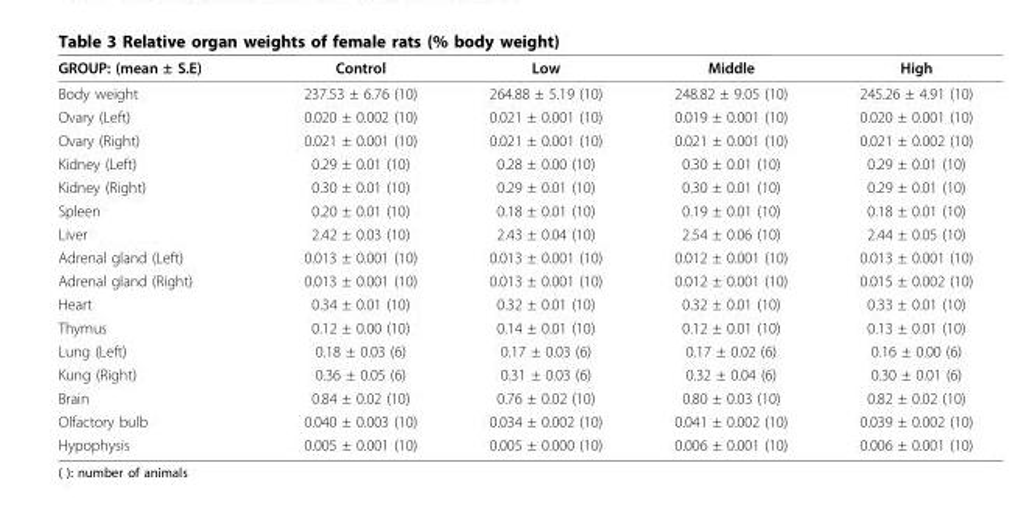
<table><thead><tr><td>GROUP: (mean ± S.E)</td><td>Control</td><td>Low</td><td>Middle</td><td>High</td></tr></thead><tbody><tr><td>Body weight</td><td>237.53 ± 6.76 (10)</td><td>264.88 ± 5.19 (10)</td><td>248.82 ± 9.05 (10)</td><td>245.26 ± 4.91 (10)</td></tr><tr><td>Ovary (Left)</td><td>0.020 ± 0.002 (10)</td><td>0.021 ± 0.001 (10)</td><td>0.019 ± 0.001 (10)</td><td>0.020 ± 0.001 (10)</td></tr><tr><td>Ovary (Right)</td><td>0.021 ± 0.001 (10)</td><td>0.021 ± 0.001 (10)</td><td>0.021 ± 0.001 (10)</td><td>0.021 ± 0.002 (10)</td></tr><tr><td>Kidney (Left)</td><td>0.29 ± 0.01 (10)</td><td>0.28 ± 0.00 (10)</td><td>0.30 ± 0.01 (10)</td><td>0.29 ± 0.01 (10)</td></tr><tr><td>Kidney (Right)</td><td>0.30 ± 0.01 (10)</td><td>0.29 ± 0.01 (10)</td><td>0.30 ± 0.01 (10)</td><td>0.29 ± 0.01 (10)</td></tr><tr><td>Spleen</td><td>0.20 ± 0.01 (10)</td><td>0.18 ± 0.01 (10)</td><td>0.19 ± 0.01 (10)</td><td>0.18 ± 0.01 (10)</td></tr><tr><td>Liver</td><td>2.42 ± 0.03 (10)</td><td>2.43 ± 0.04 (10)</td><td>2.54 ± 0.06 (10)</td><td>2.44 ± 0.05 (10)</td></tr><tr><td>Adrenal gland (Left)</td><td>0.013 ± 0.001 (10)</td><td>0.013 ± 0.001 (10)</td><td>0.012 ± 0.001 (10)</td><td>0.013 ± 0.001 (10)</td></tr><tr><td>Adrenal gland (Right)</td><td>0.013 ± 0.001 (10)</td><td>0.013 ± 0.001 (10)</td><td>0.012 ± 0.001 (10)</td><td>0.015 ± 0.002 (10)</td></tr><tr><td>Heart</td><td>0.34 ± 0.01 (10)</td><td>0.32 ± 0.01 (10)</td><td>0.32 ± 0.01 (10)</td><td>0.33 ± 0.01 (10)</td></tr><tr><td>Thymus</td><td>0.12 ± 0.00 (10)</td><td>0.14 ± 0.01 (10)</td><td>0.12 ± 0.01 (10)</td><td>0.13 ± 0.01 (10)</td></tr><tr><td>Lung (Left)</td><td>0.18 ± 0.03 (6)</td><td>0.17 ± 0.03 (6)</td><td>0.17 ± 0.02 (6)</td><td>0.16 ± 0.00 (6)</td></tr><tr><td>Kung (Right)</td><td>0.36 ± 0.05 (6)</td><td>0.31 ± 0.03 (6)</td><td>0.32 ± 0.04 (6)</td><td>0.30 ± 0.01 (6)</td></tr><tr><td>Brain</td><td>0.84 ± 0.02 (10)</td><td>0.76 ± 0.02 (10)</td><td>0.80 ± 0.03 (10)</td><td>0.82 ± 0.02 (10)</td></tr><tr><td>Olfactory bulb</td><td>0.040 ± 0.003 (10)</td><td>0.034 ± 0.002 (10)</td><td>0.041 ± 0.002 (10)</td><td>0.039 ± 0.002 (10)</td></tr><tr><td>Hypophysis</td><td>0.005 ± 0.001 (10)</td><td>0.005 ± 0.000 (10)</td><td>0.006 ± 0.001 (10)</td><td>0.006 ± 0.001 (10)</td></tr></tbody></table>